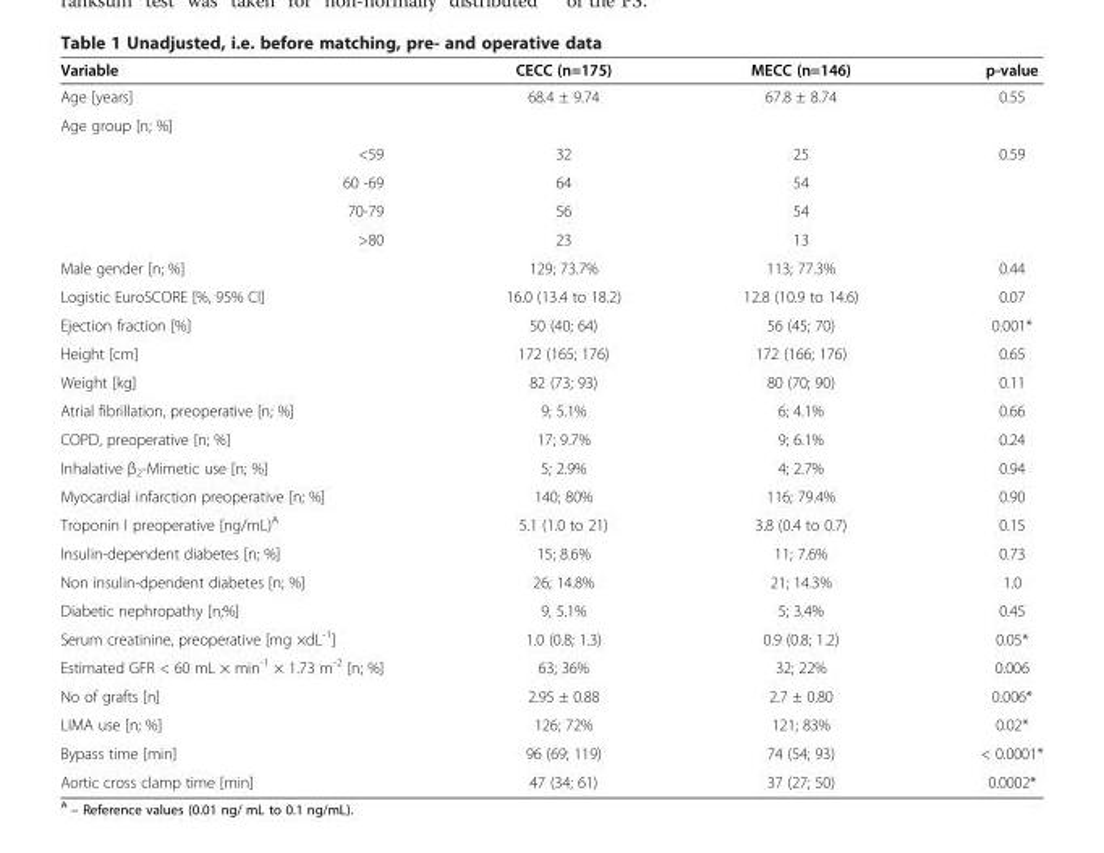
<table><thead><tr><td>Variable</td><td>CECC (n=175)</td><td>MECC (n=146)</td><td>p-value</td></tr></thead><tbody><tr><td>Age [years]</td><td>68.4 ± 9.74</td><td>67.8 ± 8.74</td><td>0.55</td></tr><tr><td colspan="4">Age group [n; %]</td></tr><tr><td>&lt;59</td><td>32</td><td>25</td><td rowspan="4">0.59</td></tr><tr><td>60 -69</td><td>64</td><td>54</td></tr><tr><td>70-79</td><td>56</td><td>54</td></tr><tr><td>&gt;80</td><td>23</td><td>13</td></tr><tr><td>Male gender [n; %]</td><td>129; 73.7%</td><td>113; 77.3%</td><td>0.44</td></tr><tr><td>Logistic EuroSCORE [%, 95% CI]</td><td>16.0 (13.4 to 18.2)</td><td>12.8 (10.9 to 14.6)</td><td>0.07</td></tr><tr><td>Ejection fraction [%]</td><td>50 (40; 64)</td><td>56 (45; 70)</td><td>0.001*</td></tr><tr><td>Height [cm]</td><td>172 (165; 176)</td><td>172 (166; 176)</td><td>0.65</td></tr><tr><td>Weight [kg]</td><td>82 (73; 93)</td><td>80 (70; 90)</td><td>0.11</td></tr><tr><td>Atrial fibrillation, preoperative [n; %]</td><td>9; 5.1%</td><td>6; 4.1%</td><td>0.66</td></tr><tr><td>COPD, preoperative [n; %]</td><td>17; 9.7%</td><td>9; 6.1%</td><td>0.24</td></tr><tr><td>Inhalative β<sub>2</sub>-Mimetic use [n; %]</td><td>5; 2.9%</td><td>4; 2.7%</td><td>0.94</td></tr><tr><td>Myocardial infarction preoperative [n; %]</td><td>140; 80%</td><td>116; 79.4%</td><td>0.90</td></tr><tr><td>Troponin I preoperative [ng/mL)<sup>A</sup></td><td>5.1 (1.0 to 21)</td><td>3.8 (0.4 to 0.7)</td><td>0.15</td></tr><tr><td>Insulin-dependent diabetes [n; %]</td><td>15; 8.6%</td><td>11; 7.6%</td><td>0.73</td></tr><tr><td>Non insulin-dpendent diabetes [n; %]</td><td>26; 14.8%</td><td>21; 14.3%</td><td>1.0</td></tr><tr><td>Diabetic nephropathy [n;%]</td><td>9, 5.1%</td><td>5; 3.4%</td><td>0.45</td></tr><tr><td>Serum creatinine, preoperative [mg ×dL<sup>-1</sup>]</td><td>1.0 (0.8; 1.3)</td><td>0.9 (0.8; 1.2)</td><td>0.05*</td></tr><tr><td>Estimated GFR &lt; 60 mL × min<sup>-1</sup> × 1.73 m<sup>-2</sup> [n; %]</td><td>63; 36%</td><td>32; 22%</td><td>0.006</td></tr><tr><td>No of grafts [n]</td><td>2.95 ± 0.88</td><td>2.7 ± 0.80</td><td>0.006*</td></tr><tr><td>LIMA use [n; %]</td><td>126; 72%</td><td>121; 83%</td><td>0.02*</td></tr><tr><td>Bypass time [min]</td><td>96 (69; 119)</td><td>74 (54; 93)</td><td>&lt; 0.0001*</td></tr><tr><td>Aortic cross clamp time [min]</td><td>47 (34; 61)</td><td>37 (27; 50)</td><td>0.0002*</td></tr></tbody></table>